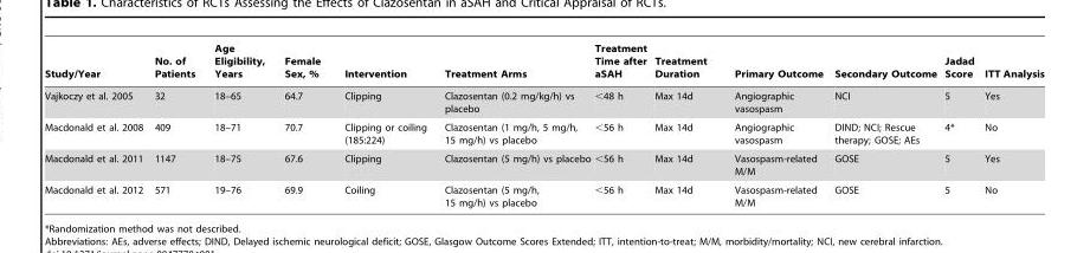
<table><thead><tr><td>Study/Year</td><td>No. of Patients</td><td>Age Eligibility, Years</td><td>Female Sex, %</td><td>Intervention</td><td>Treatment Arms</td><td>Treatment Time after aSAH</td><td>Treatment Duration</td><td>Primary Outcome</td><td>Secondary Outcome</td><td>Jadad Score</td><td>ITT Analysis</td></tr></thead><tbody><tr><td>Vajkoczy et al. 2005</td><td>32</td><td>18–65</td><td>64.7</td><td>Clipping</td><td>Clazosentan (0.2 mg/kg/h) vs placebo</td><td>&lt;48 h</td><td>Max 14d</td><td>Angiographic vasospasm</td><td>NCI</td><td>5</td><td>Yes</td></tr><tr><td>Macdonald et al. 2008</td><td>409</td><td>18–71</td><td>70.7</td><td>Clipping or coiling (185:224)</td><td>Clazosentan (1 mg/h, 5 mg/h, 15 mg/h) vs placebo</td><td>&lt;56 h</td><td>Max 14d</td><td>Angiographic vasospasm</td><td>DIND; NCI; Rescue therapy; GOSE; AEs</td><td>4*</td><td>No</td></tr><tr><td>Macdonald et al. 2011</td><td>1147</td><td>18–75</td><td>67.6</td><td>Clipping</td><td>Clazosentan (5 mg/h) vs placebo</td><td>&lt;56 h</td><td>Max 14d</td><td>Vasospasm-related M/M</td><td>GOSE</td><td>5</td><td>Yes</td></tr><tr><td>Macdonald et al. 2012</td><td>571</td><td>19–76</td><td>69.9</td><td>Coiling</td><td>Clazosentan (5 mg/h, 15 mg/h) vs placebo</td><td>&lt;56 h</td><td>Max 14d</td><td>Vasospasm-related M/M</td><td>GOSE</td><td>5</td><td>No</td></tr></tbody></table>